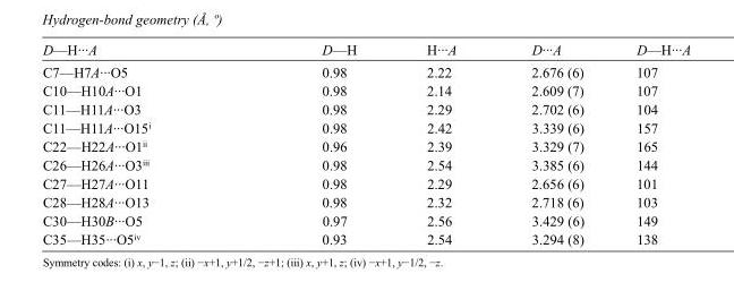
<table><tbody><tr><td>D—H···A</td><td>D—H</td><td>H···A</td><td>D···A</td><td>D—H···A</td></tr><tr><td>C7—H7A···O5</td><td>0.98</td><td>2.22</td><td>2.676 (6)</td><td>107</td></tr><tr><td>C10—H10A···O1</td><td>0.98</td><td>2.14</td><td>2.609 (7)</td><td>107</td></tr><tr><td>C11—H11A···O3</td><td>0.98</td><td>2.29</td><td>2.702 (6)</td><td>104</td></tr><tr><td>C11—H11A···O15<sup>i</sup></td><td>0.98</td><td>2.42</td><td>3.339 (6)</td><td>157</td></tr><tr><td>C22—H22A···O1<sup>ii</sup></td><td>0.96</td><td>2.39</td><td>3.329 (7)</td><td>165</td></tr><tr><td>C26—H26A···O3<sup>iii</sup></td><td>0.98</td><td>2.54</td><td>3.385 (6)</td><td>144</td></tr><tr><td>C27—H27A···O11</td><td>0.98</td><td>2.29</td><td>2.656 (6)</td><td>101</td></tr><tr><td>C28—H28A···O13</td><td>0.98</td><td>2.32</td><td>2.718 (6)</td><td>103</td></tr><tr><td>C30—H30B···O5</td><td>0.97</td><td>2.56</td><td>3.429 (6)</td><td>149</td></tr><tr><td>C35—H35···O5<sup>iv</sup></td><td>0.93</td><td>2.54</td><td>3.294 (8)</td><td>138</td></tr></tbody></table>